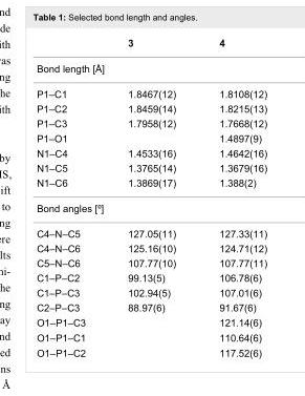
<table><thead><tr><td></td><td>3</td><td>4</td></tr></thead><tbody><tr><td colspan="3">Bond length [Å]</td></tr><tr><td>P1–C1</td><td>1.8467(12)</td><td>1.8108(12)</td></tr><tr><td>P1–C2</td><td>1.8459(14)</td><td>1.8215(13)</td></tr><tr><td>P1–C3</td><td>1.7958(12)</td><td>1.7668(12)</td></tr><tr><td>P1–O1</td><td></td><td>1.4897(9)</td></tr><tr><td>N1–C4</td><td>1.4533(16)</td><td>1.4642(16)</td></tr><tr><td>N1–C5</td><td>1.3765(14)</td><td>1.3679(16)</td></tr><tr><td>N1–C6</td><td>1.3869(17)</td><td>1.388(2)</td></tr><tr><td colspan="3">Bond angles [º]</td></tr><tr><td>C4–N–C5</td><td>127.05(11)</td><td>127.33(11)</td></tr><tr><td>C4–N–C6</td><td>125.16(10)</td><td>124.71(12)</td></tr><tr><td>C5–N–C6</td><td>107.77(10)</td><td>107.77(11)</td></tr><tr><td>C1–P–C2</td><td>99.13(5)</td><td>106.78(6)</td></tr><tr><td>C1–P–C3</td><td>102.94(5)</td><td>107.01(6)</td></tr><tr><td>C2–P–C3</td><td>88.97(6)</td><td>91.67(6)</td></tr><tr><td>O1–P1–C3</td><td></td><td>121.14(6)</td></tr><tr><td>O1–P1–C1</td><td></td><td>110.64(6)</td></tr><tr><td>O1–P1–C2</td><td></td><td>117.52(6)</td></tr></tbody></table>